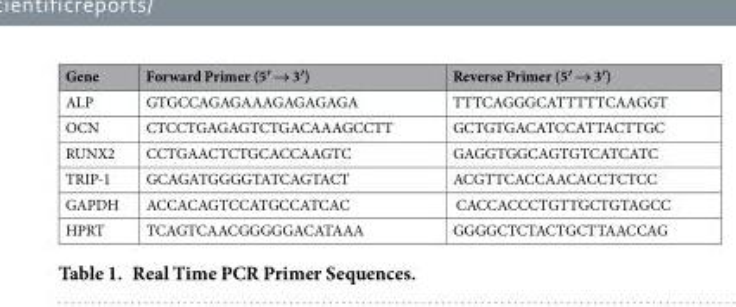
<table><thead><tr><td>Gene</td><td>Forward Primer (5′ → 3′)</td><td>Reverse Primer (5′ → 3′)</td></tr></thead><tbody><tr><td>ALP</td><td>GTGCCAGAGAAAGAGAGAGA</td><td>TTTCAGGGCATTTTTCAAGGT</td></tr><tr><td>OCN</td><td>CTCCTGAGAGTCTGACAAAGCCTT</td><td>GCTGTGACATCCATTACTTGC</td></tr><tr><td>RUNX2</td><td>CCTGAACTCTGCACCAAGTC</td><td>GAGGTGGCAGTGTCATCATC</td></tr><tr><td>TRIP-1</td><td>GCAGATGGGGTATCAGTACT</td><td>ACGTTCACCAACACCTCTCC</td></tr><tr><td>GAPDH</td><td>ACCACAGTCCATGCCATCAC</td><td>CACCACCCTGTTGCTGTAGCC</td></tr><tr><td>HPRT</td><td>TCAGTCAACGGGGGACATAAA</td><td>GGGGCTCTACTGCTTAACCAG</td></tr></tbody></table>